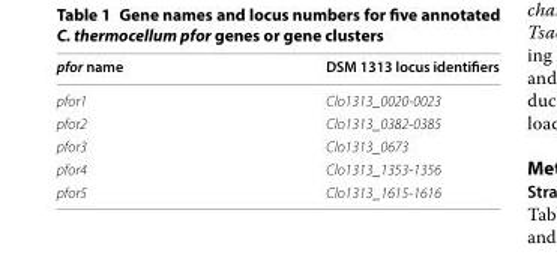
<table><thead><tr><td>pfor name</td><td>DSM 1313 locus identifiers</td></tr></thead><tbody><tr><td>pfor1</td><td>Clo1313_0020-0023</td></tr><tr><td>pfor2</td><td>Clo1313_0382-0385</td></tr><tr><td>pfor3</td><td>Clo1313_0673</td></tr><tr><td>pfor4</td><td>Clo1313_1353-1356</td></tr><tr><td>pfor5</td><td>Clo1313_1615-1616</td></tr></tbody></table>